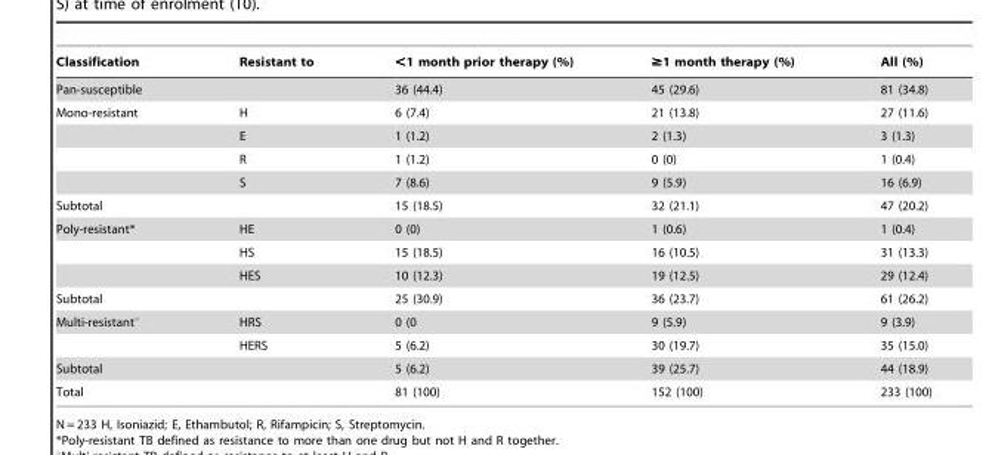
<table><thead><tr><td>Classification</td><td>Resistant to</td><td>&lt;1 month prior therapy (%)</td><td>≥1 month therapy (%)</td><td>All (%)</td></tr></thead><tbody><tr><td>Pan-susceptible</td><td></td><td>36 (44.4)</td><td>45 (29.6)</td><td>81 (34.8)</td></tr><tr><td rowspan="4">Mono-resistant</td><td>H</td><td>6 (7.4)</td><td>21 (13.8)</td><td>27 (11.6)</td></tr><tr><td>E</td><td>1 (1.2)</td><td>2 (1.3)</td><td>3 (1.3)</td></tr><tr><td>R</td><td>1 (1.2)</td><td>0 (0)</td><td>1 (0.4)</td></tr><tr><td>S</td><td>7 (8.6)</td><td>9 (5.9)</td><td>16 (6.9)</td></tr><tr><td>Subtotal</td><td></td><td>15 (18.5)</td><td>32 (21.1)</td><td>47 (20.2)</td></tr><tr><td rowspan="3">Poly-resistant*</td><td>HE</td><td>0 (0)</td><td>1 (0.6)</td><td>1 (0.4)</td></tr><tr><td>HS</td><td>15 (18.5)</td><td>16 (10.5)</td><td>31 (13.3)</td></tr><tr><td>HES</td><td>10 (12.3)</td><td>19 (12.5)</td><td>29 (12.4)</td></tr><tr><td>Subtotal</td><td></td><td>25 (30.9)</td><td>36 (23.7)</td><td>61 (26.2)</td></tr><tr><td rowspan="2">Multi-resistant°</td><td>HRS</td><td>0 (0</td><td>9 (5.9)</td><td>9 (3.9)</td></tr><tr><td>HERS</td><td>5 (6.2)</td><td>30 (19.7)</td><td>35 (15.0)</td></tr><tr><td>Subtotal</td><td></td><td>5 (6.2)</td><td>39 (25.7)</td><td>44 (18.9)</td></tr><tr><td>Total</td><td></td><td>81 (100)</td><td>152 (100)</td><td>233 (100)</td></tr></tbody></table>